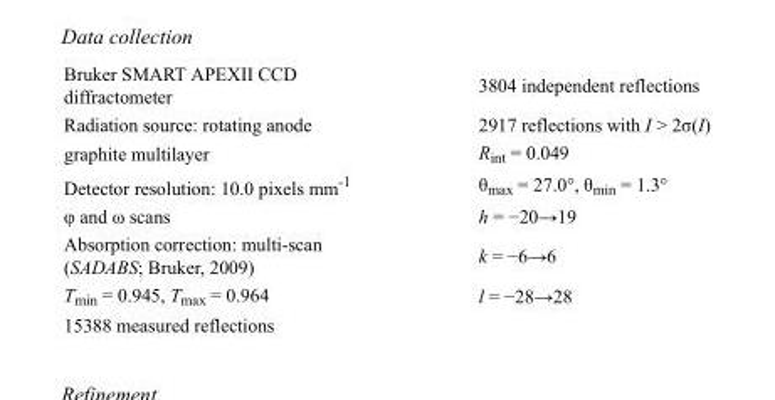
<table><tbody><tr><td>Bruker SMART APEXII CCD diffractometer</td><td>3804 independent reflections</td></tr><tr><td>Radiation source: rotating anode</td><td>2917 reflections with I &gt; 2σ(I)</td></tr><tr><td>graphite multilayer</td><td>R<sub>int</sub> = 0.049</td></tr><tr><td>Detector resolution: 10.0 pixels mm<sup>-1</sup></td><td>θ<sub>max</sub> = 27.0°, θ<sub>min</sub> = 1.3°</td></tr><tr><td>φ and ω scans</td><td>h = −20→19</td></tr><tr><td>Absorption correction: multi-scan (SADABS; Bruker, 2009)</td><td>k = −6→6</td></tr><tr><td>T<sub>min</sub> = 0.945, T<sub>max</sub> = 0.964</td><td>l = −28→28</td></tr><tr><td>15388 measured reflections</td><td></td></tr></tbody></table>